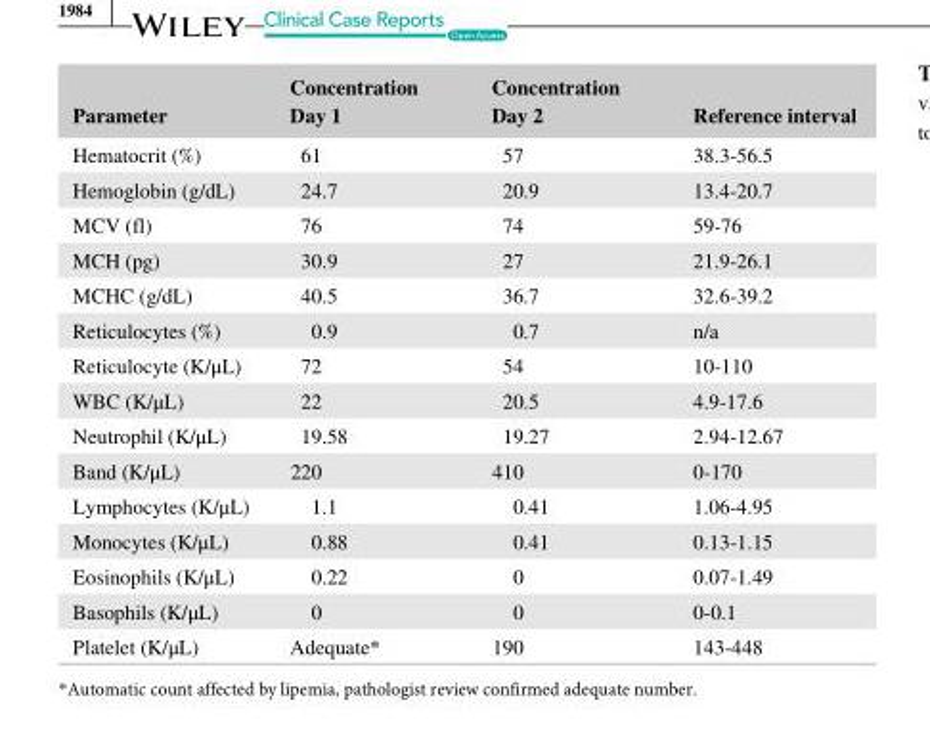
<table><thead><tr><td>Parameter</td><td>Concentration Day 1</td><td>Concentration Day 2</td><td>Reference interval</td></tr></thead><tbody><tr><td>Hematocrit (%)</td><td>61</td><td>57</td><td>38.3- 56.5</td></tr><tr><td>Hemoglobin (g/dL)</td><td>24.7</td><td>20.9</td><td>13.4- 20.7</td></tr><tr><td>MCV (fl)</td><td>76</td><td>74</td><td>59- 76</td></tr><tr><td>MCH (pg)</td><td>30.9</td><td>27</td><td>21.9- 26.1</td></tr><tr><td>MCHC (g/dL)</td><td>40.5</td><td>36.7</td><td>32.6- 39.2</td></tr><tr><td>Reticulocytes (%)</td><td>0.9</td><td>0.7</td><td>n/a</td></tr><tr><td>Reticulocyte (K/μL)</td><td>72</td><td>54</td><td>10- 110</td></tr><tr><td>WBC (K/μL)</td><td>22</td><td>20.5</td><td>4.9- 17.6</td></tr><tr><td>Neutrophil (K/μL)</td><td>19.58</td><td>19.27</td><td>2.94- 12.67</td></tr><tr><td>Band (K/μL)</td><td>220</td><td>410</td><td>0- 170</td></tr><tr><td>Lymphocytes (K/μL)</td><td>1.1</td><td>0.41</td><td>1.06- 4.95</td></tr><tr><td>Monocytes (K/μL)</td><td>0.88</td><td>0.41</td><td>0.13- 1.15</td></tr><tr><td>Eosinophils (K/μL)</td><td>0.22</td><td>0</td><td>0.07- 1.49</td></tr><tr><td>Basophils (K/μL)</td><td>0</td><td>0</td><td>0- 0.1</td></tr><tr><td>Platelet (K/μL)</td><td>Adequate*</td><td>190</td><td>143- 448</td></tr></tbody></table>